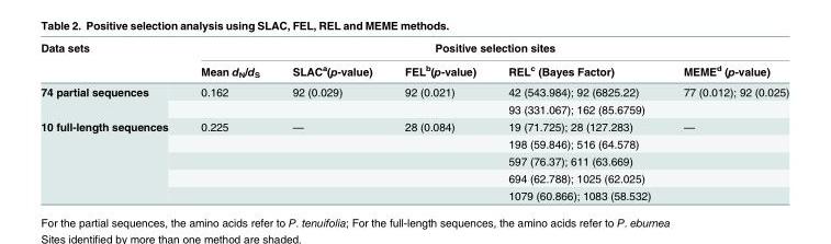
<table><thead><tr><td rowspan="2">Data sets</td><td colspan="5">Positive selection sites</td></tr><tr><td>Mean d<sub>N</sub>/d<sub>S</sub></td><td>SLAC<sup>a</sup>(p-value)</td><td>FEL<sup>b</sup>(p-value)</td><td>REL<sup>c</sup> (Bayes Factor)</td><td>MEME<sup>d</sup> (p-value)</td></tr></thead><tbody><tr><td rowspan="2">74 partial sequences</td><td>0.162</td><td>92 (0.029)</td><td>92 (0.021)</td><td>42 (543.984); 92 (6825.22)</td><td>77 (0.012); 92 (0.025)</td></tr><tr><td></td><td></td><td></td><td>93 (331.067); 162 (85.6759)</td><td></td></tr><tr><td rowspan="5">10 full-length sequences</td><td>0.225</td><td>—</td><td>28 (0.084)</td><td>19 (71.725); 28 (127.283)</td><td>—</td></tr><tr><td></td><td></td><td></td><td>198 (59.846); 516 (64.578)</td><td></td></tr><tr><td></td><td></td><td></td><td>597 (76.37); 611 (63.669)</td><td></td></tr><tr><td></td><td></td><td></td><td>694 (62.788); 1025 (62.025)</td><td></td></tr><tr><td></td><td></td><td></td><td>1079 (60.866); 1083 (58.532)</td><td></td></tr></tbody></table>